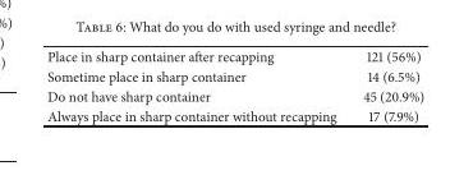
<table><tbody><tr><td>Place in sharp container after recapping</td><td>121 (56%)</td></tr><tr><td>Sometime place in sharp container</td><td>14 (6.5%)</td></tr><tr><td>Do not have sharp container</td><td>45 (20.9%)</td></tr><tr><td>Always place in sharp container without recapping</td><td>17 (7.9%)</td></tr></tbody></table>